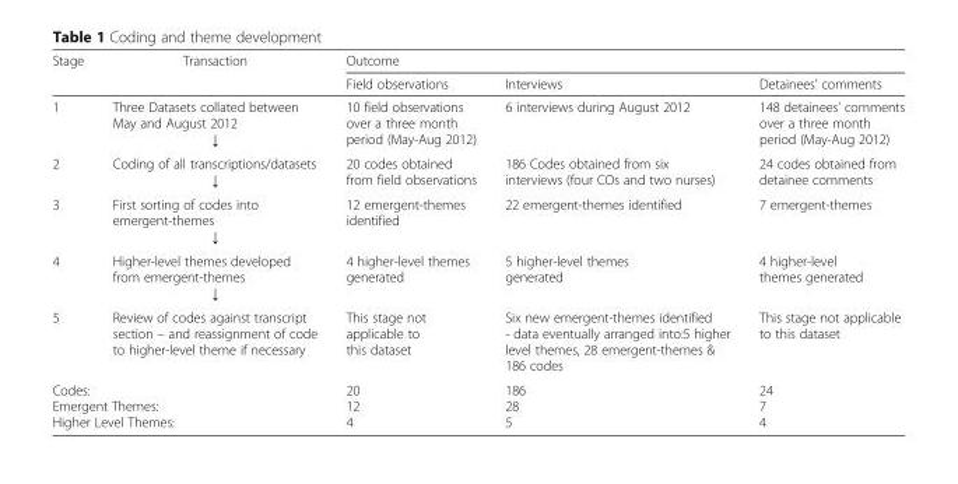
<table><thead><tr><td rowspan="2">Stage</td><td rowspan="2">Transaction</td><td colspan="3">Outcome</td></tr><tr><td>Field observations</td><td>Interviews</td><td>Detainees’ comments</td></tr></thead><tbody><tr><td>1</td><td>Three Datasets collated between May and August 2012 ↓</td><td>10 field observations over a three month period (May-Aug 2012)</td><td>6 interviews during August 2012</td><td>148 detainees’ comments over a three month period (May-Aug 2012)</td></tr><tr><td>2</td><td>Coding of all transcriptions/datasets ↓</td><td>20 codes obtained from field observations</td><td>186 Codes obtained from six interviews (four COs and two nurses)</td><td>24 codes obtained from detainee comments</td></tr><tr><td>3</td><td>First sorting of codes into emergent-themes ↓</td><td>12 emergent-themes identified</td><td>22 emergent-themes identified</td><td>7 emergent-themes</td></tr><tr><td>4</td><td>Higher-level themes developed from emergent-themes ↓</td><td>4 higher-level themes generated</td><td>5 higher-level themes generated</td><td>4 higher-level themes generated</td></tr><tr><td>5</td><td>Review of codes against transcript section – and reassignment of code to higher-level theme if necessary</td><td>This stage not applicable to this dataset</td><td>Six new emergent-themes identified - data eventually arranged into:5 higher level themes, 28 emergent-themes &amp; 186 codes</td><td>This stage not applicable to this dataset</td></tr><tr><td colspan="2">Codes: Emergent Themes: Higher Level Themes:</td><td>20 12 4</td><td>186 28 5</td><td>24 7 4</td></tr></tbody></table>